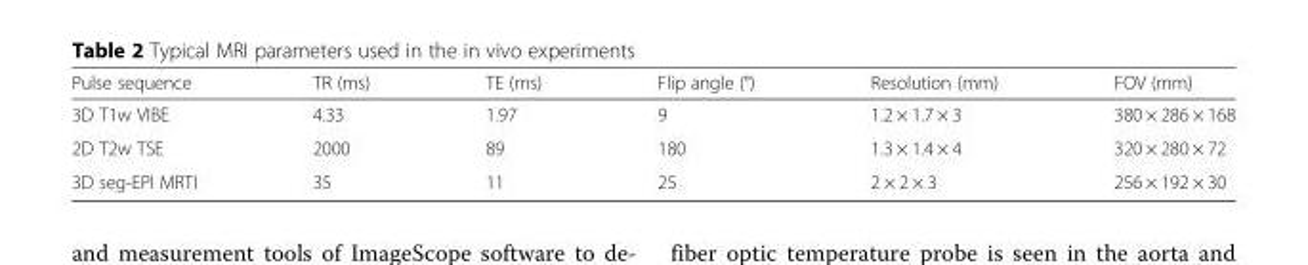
<table><thead><tr><td>Pulse sequence</td><td>TR (ms)</td><td>TE (ms)</td><td>Flip angle (°)</td><td>Resolution (mm)</td><td>FOV (mm)</td></tr></thead><tbody><tr><td>3D T1w VIBE</td><td>4.33</td><td>1.97</td><td>9</td><td>1.2 × 1.7 × 3</td><td>380 × 286 × 168</td></tr><tr><td>2D T2w TSE</td><td>2000</td><td>89</td><td>180</td><td>1.3 × 1.4 × 4</td><td>320 × 280 × 72</td></tr><tr><td>3D seg-EPI MRTI</td><td>35</td><td>11</td><td>25</td><td>2 × 2 × 3</td><td>256 × 192 × 30</td></tr></tbody></table>